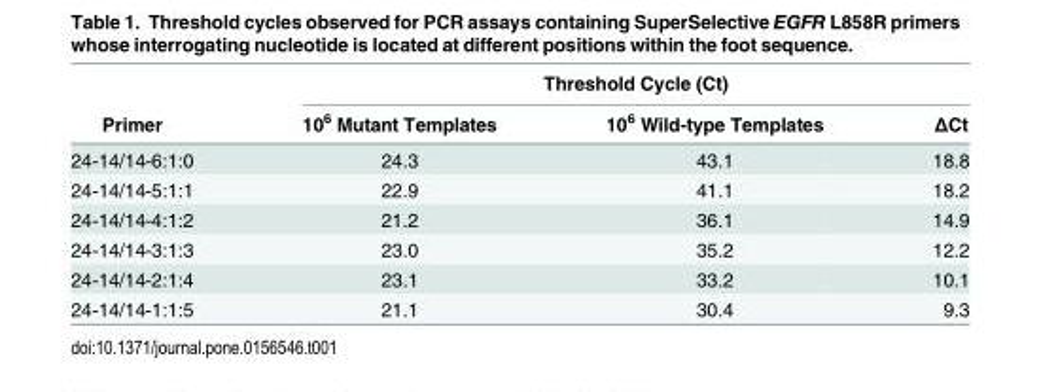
<table><thead><tr><td rowspan="2">Primer</td><td colspan="3">Threshold Cycle (Ct)</td></tr><tr><td>10<sup>6</sup> Mutant Templates</td><td>10<sup>6</sup> Wild-type Templates</td><td>ΔCt</td></tr></thead><tbody><tr><td>24-14/14-6:1:0</td><td>24.3</td><td>43.1</td><td>18.8</td></tr><tr><td>24-14/14-5:1:1</td><td>22.9</td><td>41.1</td><td>18.2</td></tr><tr><td>24-14/14-4:1:2</td><td>21.2</td><td>36.1</td><td>14.9</td></tr><tr><td>24-14/14-3:1:3</td><td>23.0</td><td>35.2</td><td>12.2</td></tr><tr><td>24-14/14-2:1:4</td><td>23.1</td><td>33.2</td><td>10.1</td></tr><tr><td>24-14/14-1:1:5</td><td>21.1</td><td>30.4</td><td>9.3</td></tr></tbody></table>